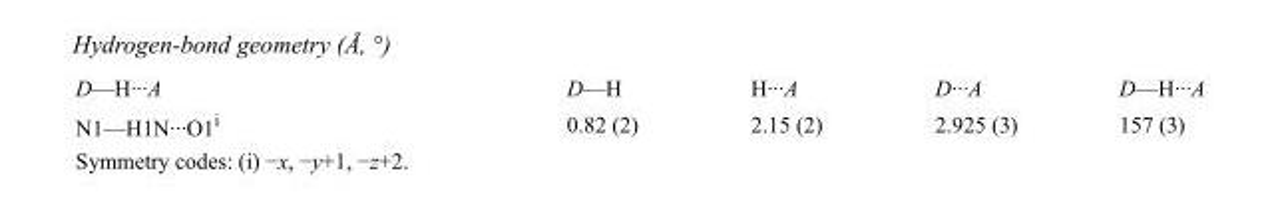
<table><tbody><tr><td>D—H···A</td><td>D—H</td><td>H···A</td><td>D···A</td><td>D—H···A</td></tr><tr><td>N1—H1N···O1<sup>i</sup></td><td>0.82 (2)</td><td>2.15 (2)</td><td>2.925 (3)</td><td>157 (3)</td></tr></tbody></table>